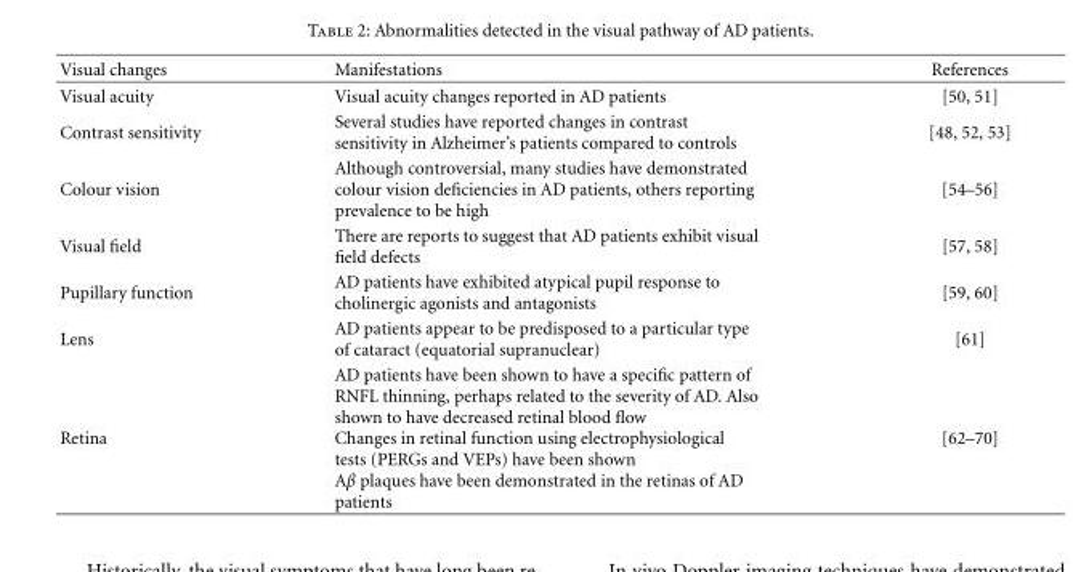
<table><thead><tr><td>Visual changes</td><td>Manifestations</td><td>References</td></tr></thead><tbody><tr><td>Visual acuity</td><td>Visual acuity changes reported in AD patients</td><td>[50, 51]</td></tr><tr><td>Contrast sensitivity</td><td>Several studies have reported changes in contrast sensitivity in Alzheimer’s patients compared to controls</td><td>[48, 52, 53]</td></tr><tr><td>Colour vision</td><td>Although controversial, many studies have demonstrated colour vision deficiencies in AD patients, others reporting prevalence to be high</td><td>[54–56]</td></tr><tr><td>Visual field</td><td>There are reports to suggest that AD patients exhibit visual field defects</td><td>[57, 58]</td></tr><tr><td>Pupillary function</td><td>AD patients have exhibited atypical pupil response to cholinergic agonists and antagonists</td><td>[59, 60]</td></tr><tr><td>Lens</td><td>AD patients appear to be predisposed to a particular type of cataract (equatorial supranuclear)</td><td>[61]</td></tr><tr><td>Retina</td><td>AD patients have been shown to have a specific pattern of RNFL thinning, perhaps related to the severity of AD. Also shown to have decreased retinal blood flow Changes in retinal function using electrophysiological tests (PERGs and VEPs) have been shown Aβ plaques have been demonstrated in the retinas of AD patients</td><td>[62–70]</td></tr></tbody></table>